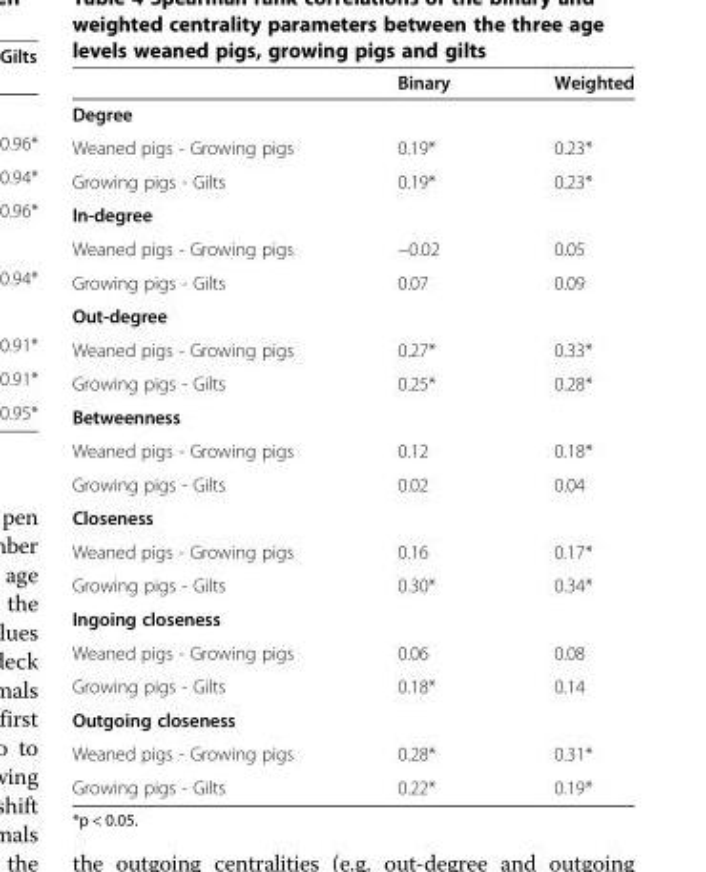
<table><thead><tr><td></td><td>Binary</td><td>Weighted</td></tr></thead><tbody><tr><td colspan="3">Degree</td></tr><tr><td>Weaned pigs - Growing pigs</td><td>0.19*</td><td>0.23*</td></tr><tr><td>Growing pigs - Gilts</td><td>0.19*</td><td>0.23*</td></tr><tr><td colspan="3">In-degree</td></tr><tr><td>Weaned pigs - Growing pigs</td><td>−0.02</td><td>0.05</td></tr><tr><td>Growing pigs - Gilts</td><td>0.07</td><td>0.09</td></tr><tr><td colspan="3">Out-degree</td></tr><tr><td>Weaned pigs - Growing pigs</td><td>0.27*</td><td>0.33*</td></tr><tr><td>Growing pigs - Gilts</td><td>0.25*</td><td>0.28*</td></tr><tr><td colspan="3">Betweenness</td></tr><tr><td>Weaned pigs - Growing pigs</td><td>0.12</td><td>0.18*</td></tr><tr><td>Growing pigs - Gilts</td><td>0.02</td><td>0.04</td></tr><tr><td colspan="3">Closeness</td></tr><tr><td>Weaned pigs - Growing pigs</td><td>0.16</td><td>0.17*</td></tr><tr><td>Growing pigs - Gilts</td><td>0.30*</td><td>0.34*</td></tr><tr><td colspan="3">Ingoing closeness</td></tr><tr><td>Weaned pigs - Growing pigs</td><td>0.06</td><td>0.08</td></tr><tr><td>Growing pigs - Gilts</td><td>0.18*</td><td>0.14</td></tr><tr><td colspan="3">Outgoing closeness</td></tr><tr><td>Weaned pigs - Growing pigs</td><td>0.28*</td><td>0.31*</td></tr><tr><td>Growing pigs - Gilts</td><td>0.22*</td><td>0.19*</td></tr></tbody></table>